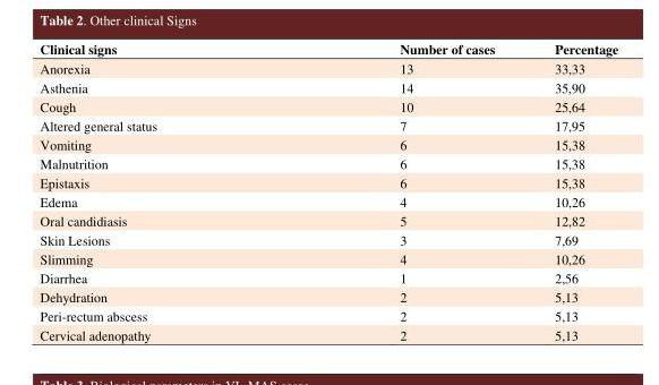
<table><thead><tr><td>Clinical signs</td><td>Number of cases</td><td>Percentage</td></tr></thead><tbody><tr><td>Anorexia</td><td>13</td><td>33,33</td></tr><tr><td>Asthenia</td><td>14</td><td>35,90</td></tr><tr><td>Cough</td><td>10</td><td>25,64</td></tr><tr><td>Altered general status</td><td>7</td><td>17,95</td></tr><tr><td>Vomiting</td><td>6</td><td>15,38</td></tr><tr><td>Malnutrition</td><td>6</td><td>15,38</td></tr><tr><td>Epistaxis</td><td>6</td><td>15,38</td></tr><tr><td>Edema</td><td>4</td><td>10,26</td></tr><tr><td>Oral candidiasis</td><td>5</td><td>12,82</td></tr><tr><td>Skin Lesions</td><td>3</td><td>7,69</td></tr><tr><td>Slimming</td><td>4</td><td>10,26</td></tr><tr><td>Diarrhea</td><td>1</td><td>2,56</td></tr><tr><td>Dehydration</td><td>2</td><td>5,13</td></tr><tr><td>Peri-rectum abscess</td><td>2</td><td>5,13</td></tr><tr><td>Cervical adenopathy</td><td>2</td><td>5,13</td></tr></tbody></table>